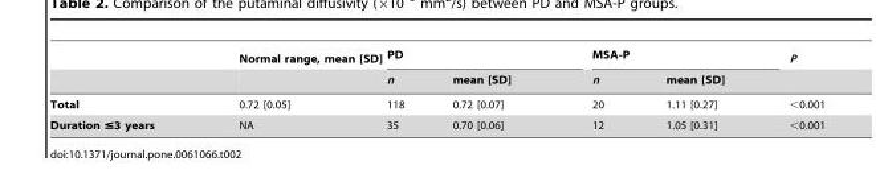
<table><thead><tr><td rowspan="2"></td><td rowspan="2">Normal range, mean [SD]</td><td colspan="2">PD</td><td colspan="2">MSA-P</td><td rowspan="2">P</td></tr><tr><td>n</td><td>mean [SD]</td><td>n</td><td>mean [SD]</td></tr></thead><tbody><tr><td>Total</td><td>0.72 [0.05]</td><td>118</td><td>0.72 [0.07]</td><td>20</td><td>1.11 [0.27]</td><td>&lt;0.001</td></tr><tr><td>Duration ≤3 years</td><td>NA</td><td>35</td><td>0.70 [0.06]</td><td>12</td><td>1.05 [0.31]</td><td>&lt;0.001</td></tr></tbody></table>